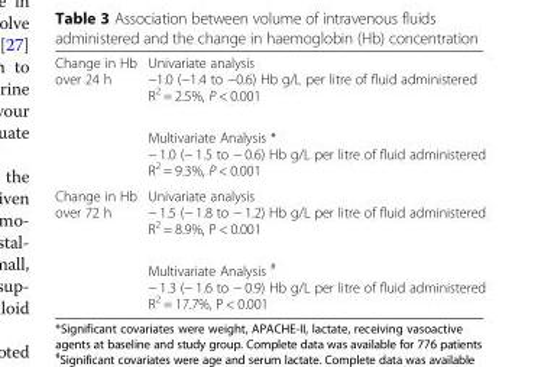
<table><tbody><tr><td rowspan="2">Change in Hb over 24 h</td><td>Univariate analysis −1.0 (−1.4 to −0.6) Hb g/L per litre of fluid administered R<sup>2</sup> = 2.5%, P &lt; 0.001</td></tr><tr><td>Multivariate Analysis * − 1.0 (− 1.5 to − 0.6) Hb g/L per litre of fluid administered R<sup>2</sup> = 9.3%, P &lt; 0.001</td></tr><tr><td rowspan="2">Change in Hb over 72 h</td><td>Univariate analysis − 1.5 (− 1.8 to − 1.2) Hb g/L per litre of fluid administered R<sup>2</sup> = 8.9%, P &lt; 0.001</td></tr><tr><td>Multivariate Analysis <sup>#</sup> − 1.3 (− 1.6 to − 0.9) Hb g/L per litre of fluid administered R<sup>2</sup> = 17.7%, P &lt; 0.001</td></tr></tbody></table>